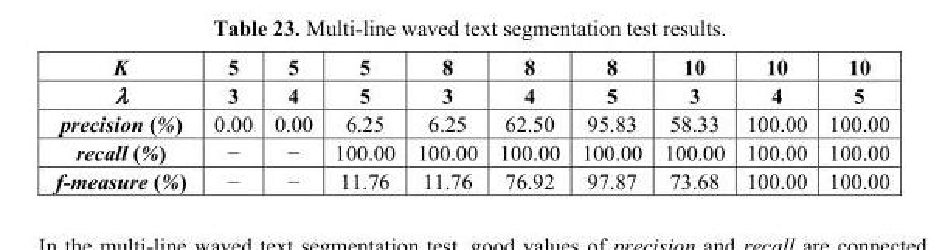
<table><thead><tr><td rowspan="2">K λ</td><td rowspan="2">5 3</td><td rowspan="2">5 4</td><td rowspan="2">5 5</td><td rowspan="2">8 3</td><td rowspan="2">8 4</td><td rowspan="2">8 5</td><td rowspan="2">10 3</td><td rowspan="2">10 4</td><td rowspan="2">10 5</td></tr><tr></tr></thead><tbody><tr><td>precision (%)</td><td>0.00</td><td>0.00</td><td>6.25</td><td>6.25</td><td>62.50</td><td>95.83</td><td>58.33</td><td>100.00</td><td>100.00</td></tr><tr><td>recall (%)</td><td>−</td><td>−</td><td>100.00</td><td>100.00</td><td>100.00</td><td>100.00</td><td>100.00</td><td>100.00</td><td>100.00</td></tr><tr><td>f-measure (%)</td><td>−</td><td>−</td><td>11.76</td><td>11.76</td><td>76.92</td><td>97.87</td><td>73.68</td><td>100.00</td><td>100.00</td></tr></tbody></table>